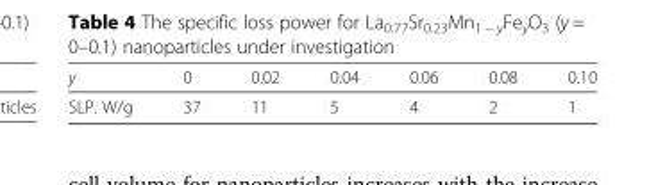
<table><thead><tr><td>y</td><td>0</td><td>0.02</td><td>0.04</td><td>0.06</td><td>0.08</td><td>0.10</td></tr></thead><tbody><tr><td>SLP. W/g</td><td>37</td><td>11</td><td>5</td><td>4</td><td>2</td><td>1</td></tr></tbody></table>